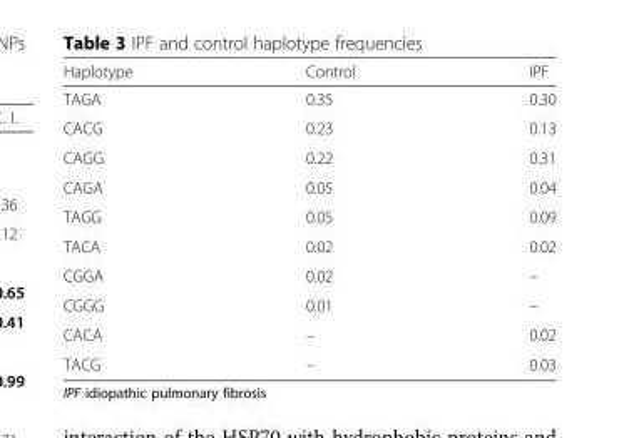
<table><thead><tr><td>Haplotype</td><td>Control</td><td>IPF</td></tr></thead><tbody><tr><td>TAGA</td><td>0.35</td><td>0.30</td></tr><tr><td>CACG</td><td>0.23</td><td>0.13</td></tr><tr><td>CAGG</td><td>0.22</td><td>0.31</td></tr><tr><td>CAGA</td><td>0.05</td><td>0.04</td></tr><tr><td>TAGG</td><td>0.05</td><td>0.09</td></tr><tr><td>TACA</td><td>0.02</td><td>0.02</td></tr><tr><td>CGGA</td><td>0.02</td><td>–</td></tr><tr><td>CGGG</td><td>0.01</td><td>–</td></tr><tr><td>CACA</td><td>–</td><td>0.02</td></tr><tr><td>TACG</td><td>–</td><td>0.03</td></tr></tbody></table>